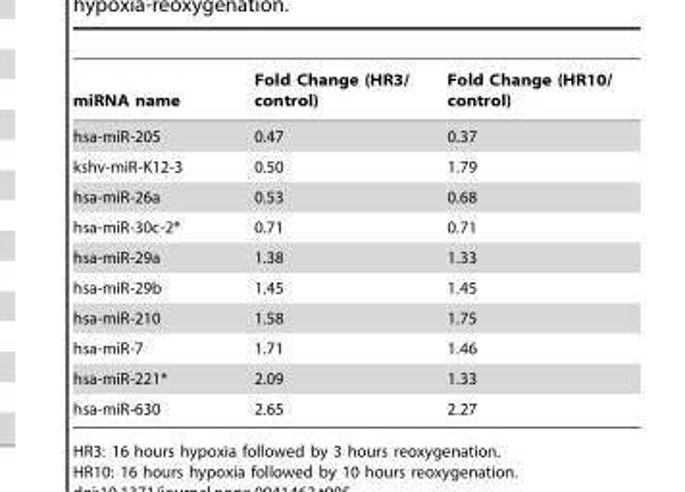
<table><thead><tr><td>miRNA name</td><td>Fold Change (HR3/ control)</td><td>Fold Change (HR10/ control)</td></tr></thead><tbody><tr><td>hsa-miR-205</td><td>0.47</td><td>0.37</td></tr><tr><td>kshv-miR-K12-3</td><td>0.50</td><td>1.79</td></tr><tr><td>hsa-miR-26a</td><td>0.53</td><td>0.68</td></tr><tr><td>hsa-miR-30c-2*</td><td>0.71</td><td>0.71</td></tr><tr><td>hsa-miR-29a</td><td>1.38</td><td>1.33</td></tr><tr><td>hsa-miR-29b</td><td>1.45</td><td>1.45</td></tr><tr><td>hsa-miR-210</td><td>1.58</td><td>1.75</td></tr><tr><td>hsa-miR-7</td><td>1.71</td><td>1.46</td></tr><tr><td>hsa-miR-221*</td><td>2.09</td><td>1.33</td></tr><tr><td>hsa-miR-630</td><td>2.65</td><td>2.27</td></tr></tbody></table>